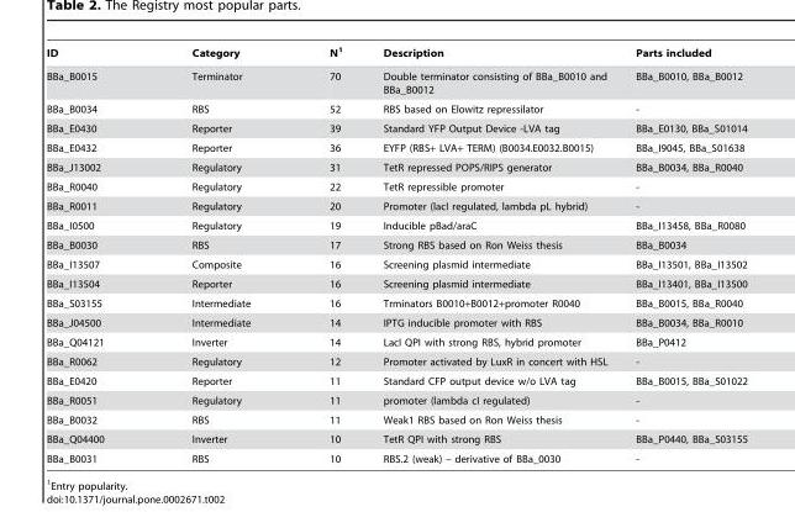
<table><thead><tr><td>ID</td><td>Category</td><td>N<sup>1</sup></td><td>Description</td><td>Parts included</td></tr></thead><tbody><tr><td>BBa_B0015</td><td>Terminator</td><td>70</td><td>Double terminator consisting of BBa_B0010 and BBa_B0012</td><td>BBa_B0010, BBa_B0012</td></tr><tr><td>BBa_B0034</td><td>RBS</td><td>52</td><td>RBS based on Elowitz repressilator</td><td>-</td></tr><tr><td>BBa_E0430</td><td>Reporter</td><td>39</td><td>Standard YFP Output Device -LVA tag</td><td>BBa_E0130, BBa_S01014</td></tr><tr><td>BBa_E0432</td><td>Reporter</td><td>36</td><td>EYFP (RBS+ LVA+ TERM) (B0034.E0032.B0015)</td><td>BBa_I9045, BBa_S01638</td></tr><tr><td>BBa_J13002</td><td>Regulatory</td><td>31</td><td>TetR repressed POPS/RIPS generator</td><td>BBa_B0034, BBa_R0040</td></tr><tr><td>BBa_R0040</td><td>Regulatory</td><td>22</td><td>TetR repressible promoter</td><td>-</td></tr><tr><td>BBa_R0011</td><td>Regulatory</td><td>20</td><td>Promoter (lacI regulated, lambda pL hybrid)</td><td>-</td></tr><tr><td>BBa_I0500</td><td>Regulatory</td><td>19</td><td>Inducible pBad/araC</td><td>BBa_I13458, BBa_R0080</td></tr><tr><td>BBa_B0030</td><td>RBS</td><td>17</td><td>Strong RBS based on Ron Weiss thesis</td><td>BBa_B0034</td></tr><tr><td>BBa_I13507</td><td>Composite</td><td>16</td><td>Screening plasmid intermediate</td><td>BBa_I13501, BBa_I13502</td></tr><tr><td>BBa_I13504</td><td>Reporter</td><td>16</td><td>Screening plasmid intermediate</td><td>BBa_I13401, BBa_I13500</td></tr><tr><td>BBa_S03155</td><td>Intermediate</td><td>16</td><td>Trminators B0010+B0012+promoter R0040</td><td>BBa_B0015, BBa_R0040</td></tr><tr><td>BBa_J04500</td><td>Intermediate</td><td>14</td><td>IPTG inducible promoter with RBS</td><td>BBa_B0034, BBa_R0010</td></tr><tr><td>BBa_Q04121</td><td>Inverter</td><td>14</td><td>LacI QPI with strong RBS, hybrid promoter</td><td>BBa_P0412</td></tr><tr><td>BBa_R0062</td><td>Regulatory</td><td>12</td><td>Promoter activated by LuxR in concert with HSL</td><td>-</td></tr><tr><td>BBa_E0420</td><td>Reporter</td><td>11</td><td>Standard CFP output device w/o LVA tag</td><td>BBa_B0015, BBa_S01022</td></tr><tr><td>BBa_R0051</td><td>Regulatory</td><td>11</td><td>promoter (lambda cI regulated)</td><td>-</td></tr><tr><td>BBa_B0032</td><td>RBS</td><td>11</td><td>Weak1 RBS based on Ron Weiss thesis</td><td>-</td></tr><tr><td>BBa_Q04400</td><td>Inverter</td><td>10</td><td>TetR QPI with strong RBS</td><td>BBa_P0440, BBa_S03155</td></tr><tr><td>BBa_B0031</td><td>RBS</td><td>10</td><td>RBS.2 (weak) – derivative of BBa_0030</td><td>-</td></tr></tbody></table>